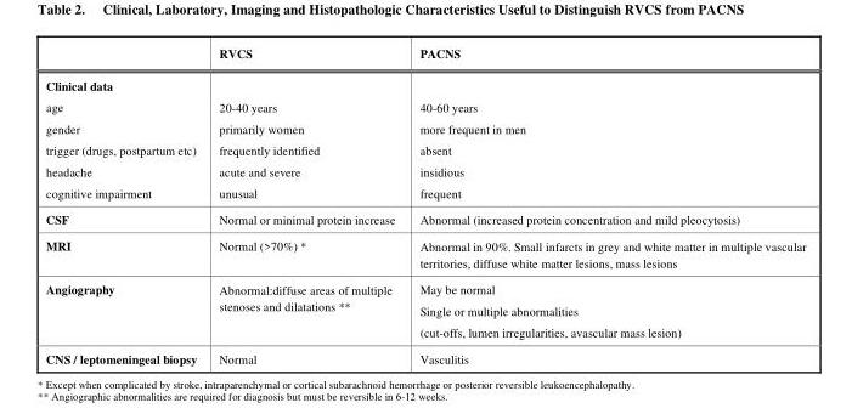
<table><thead><tr><td></td><td>RVCS</td><td>PACNS</td></tr></thead><tbody><tr><td colspan="3">Clinical data</td></tr><tr><td>age</td><td>20-40 years</td><td>40-60 years</td></tr><tr><td>gender</td><td>primarily women</td><td>more frequent in men</td></tr><tr><td>trigger (drugs, postpartum etc)</td><td>frequently identified</td><td>absent</td></tr><tr><td>headache</td><td>acute and severe</td><td>insidious</td></tr><tr><td>cognitive impairment</td><td>unusual</td><td>frequent</td></tr><tr><td>CSF</td><td>Normal or minimal protein increase</td><td>Abnormal (increased protein concentration and mild pleocytosis)</td></tr><tr><td>MRI</td><td>Normal (&gt;70%) *</td><td>Abnormal in 90%. Small infarcts in grey and white matter in multiple vascular territories, diffuse white matter lesions, mass lesions</td></tr><tr><td>Angiography</td><td>Abnormal:diffuse areas of multiple stenoses and dilatations **</td><td>May be normal Single or multiple abnormalities (cut-offs, lumen irregularities, avascular mass lesion)</td></tr><tr><td>CNS / leptomeningeal biopsy</td><td>Normal</td><td>Vasculitis</td></tr></tbody></table>